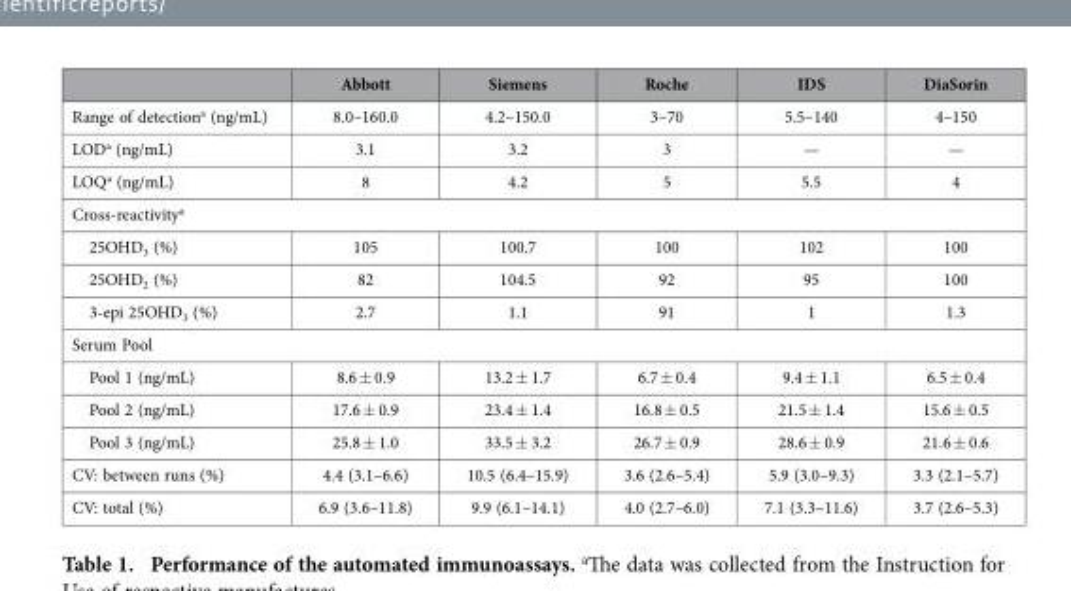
<table><thead><tr><td></td><td>Abbott</td><td>Siemens</td><td>Roche</td><td>IDS</td><td>DiaSorin</td></tr></thead><tbody><tr><td>Range of detection<sup>a</sup> (ng/mL)</td><td>8.0–160.0</td><td>4.2–150.0</td><td>3–70</td><td>5.5–140</td><td>4–150</td></tr><tr><td>LOD<sup>a</sup> (ng/mL)</td><td>3.1</td><td>3.2</td><td>3</td><td>—</td><td>—</td></tr><tr><td>LOQ<sup>a</sup> (ng/mL)</td><td>8</td><td>4.2</td><td>5</td><td>5.5</td><td>4</td></tr><tr><td colspan="6">Cross-reactivity<sup>a</sup></td></tr><tr><td>25OHD<sub>3</sub> (%)</td><td>105</td><td>100.7</td><td>100</td><td>102</td><td>100</td></tr><tr><td>25OHD<sub>2</sub> (%)</td><td>82</td><td>104.5</td><td>92</td><td>95</td><td>100</td></tr><tr><td>3-epi 25OHD<sub>3</sub> (%)</td><td>2.7</td><td>1.1</td><td>91</td><td>1</td><td>1.3</td></tr><tr><td colspan="6">Serum Pool</td></tr><tr><td>Pool 1 (ng/mL)</td><td>8.6 ± 0.9</td><td>13.2 ± 1.7</td><td>6.7 ± 0.4</td><td>9.4 ± 1.1</td><td>6.5 ± 0.4</td></tr><tr><td>Pool 2 (ng/mL)</td><td>17.6 ± 0.9</td><td>23.4 ± 1.4</td><td>16.8 ± 0.5</td><td>21.5 ± 1.4</td><td>15.6 ± 0.5</td></tr><tr><td>Pool 3 (ng/mL)</td><td>25.8 ± 1.0</td><td>33.5 ± 3.2</td><td>26.7 ± 0.9</td><td>28.6 ± 0.9</td><td>21.6 ± 0.6</td></tr><tr><td>CV: between runs (%)</td><td>4.4 (3.1–6.6)</td><td>10.5 (6.4–15.9)</td><td>3.6 (2.6–5.4)</td><td>5.9 (3.0–9.3)</td><td>3.3 (2.1–5.7)</td></tr><tr><td>CV: total (%)</td><td>6.9 (3.6–11.8)</td><td>9.9 (6.1–14.1)</td><td>4.0 (2.7–6.0)</td><td>7.1 (3.3–11.6)</td><td>3.7 (2.6–5.3)</td></tr></tbody></table>